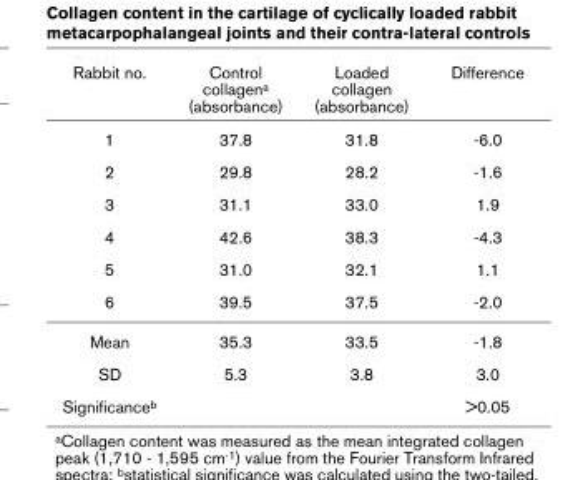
<table><thead><tr><td>Rabbit no.</td><td>Control collagena (absorbance)</td><td>Loaded collagen (absorbance)</td><td>Difference</td></tr></thead><tbody><tr><td>1</td><td>37.8</td><td>31.8</td><td>-6.0</td></tr><tr><td>2</td><td>29.8</td><td>28.2</td><td>-1.6</td></tr><tr><td>3</td><td>31.1</td><td>33.0</td><td>1.9</td></tr><tr><td>4</td><td>42.6</td><td>38.3</td><td>-4.3</td></tr><tr><td>5</td><td>31.0</td><td>32.1</td><td>1.1</td></tr><tr><td>6</td><td>39.5</td><td>37.5</td><td>-2.0</td></tr><tr><td>Mean</td><td>35.3</td><td>33.5</td><td>-1.8</td></tr><tr><td>SD</td><td>5.3</td><td>3.8</td><td>3.0</td></tr><tr><td>Significanceb</td><td></td><td></td><td>&gt;0.05</td></tr></tbody></table>